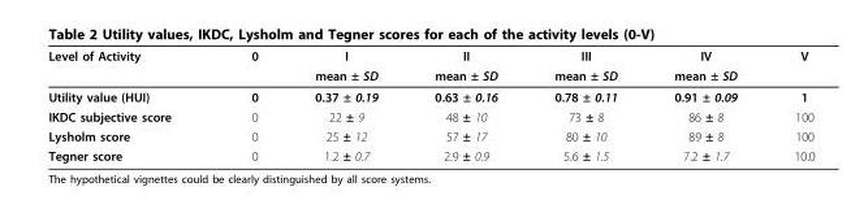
<table><thead><tr><td rowspan="2">Level of Activity</td><td rowspan="2">0</td><td rowspan="2">I mean ± SD</td><td rowspan="2">II mean ± SD</td><td rowspan="2">III mean ± SD</td><td rowspan="2">IV mean ± SD</td><td rowspan="2">V</td></tr><tr></tr></thead><tbody><tr><td>Utility value (HUI)</td><td>0</td><td>0.37 ± 0.19</td><td>0.63 ± 0.16</td><td>0.78 ± 0.11</td><td>0.91 ± 0.09</td><td>1</td></tr><tr><td>IKDC subjective score</td><td>0</td><td>22 ± 9</td><td>48 ± 10</td><td>73 ± 8</td><td>86 ± 8</td><td>100</td></tr><tr><td>Lysholm score</td><td>0</td><td>25 ± 12</td><td>57 ± 17</td><td>80 ± 10</td><td>89 ± 8</td><td>100</td></tr><tr><td>Tegner score</td><td>0</td><td>1.2 ± 0.7</td><td>2.9 ± 0.9</td><td>5.6 ± 1.5</td><td>7.2 ± 1.7</td><td>10.0</td></tr></tbody></table>